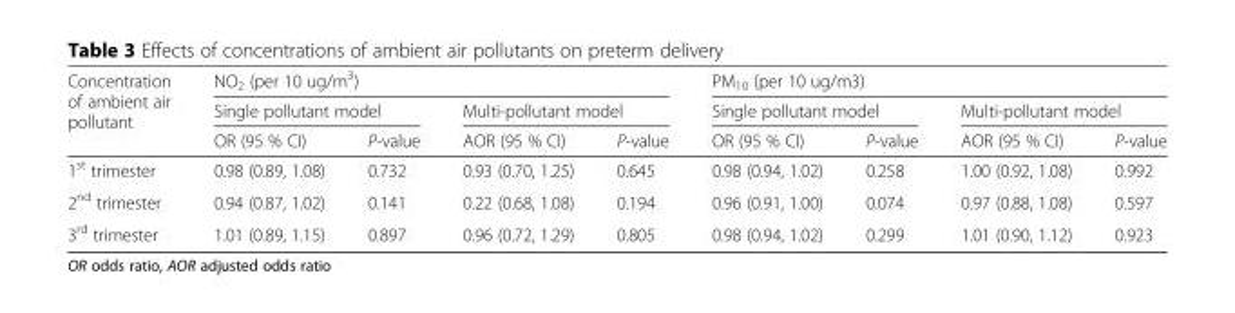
<table><thead><tr><td rowspan="3">Concentration of ambient air pollutant</td><td colspan="4">NO<sub>2</sub> (per 10 ug/m<sup>3</sup>)</td><td colspan="4">PM<sub>10</sub> (per 10 ug/m3)</td></tr><tr><td colspan="2">Single pollutant model</td><td colspan="2">Multi-pollutant model</td><td colspan="2">Single pollutant model</td><td colspan="2">Multi-pollutant model</td></tr><tr><td>OR (95 % CI)</td><td>P-value</td><td>AOR (95 % CI)</td><td>P-value</td><td>OR (95 % CI)</td><td>P-value</td><td>AOR (95 % CI)</td><td>P-value</td></tr></thead><tbody><tr><td>1<sup>st</sup> trimester</td><td>0.98 (0.89, 1.08)</td><td>0.732</td><td>0.93 (0.70, 1.25)</td><td>0.645</td><td>0.98 (0.94, 1.02)</td><td>0.258</td><td>1.00 (0.92, 1.08)</td><td>0.992</td></tr><tr><td>2<sup>nd</sup> trimester</td><td>0.94 (0.87, 1.02)</td><td>0.141</td><td>0.22 (0.68, 1.08)</td><td>0.194</td><td>0.96 (0.91, 1.00)</td><td>0.074</td><td>0.97 (0.88, 1.08)</td><td>0.597</td></tr><tr><td>3<sup>rd</sup> trimester</td><td>1.01 (0.89, 1.15)</td><td>0.897</td><td>0.96 (0.72, 1.29)</td><td>0.805</td><td>0.98 (0.94, 1.02)</td><td>0.299</td><td>1.01 (0.90, 1.12)</td><td>0.923</td></tr></tbody></table>